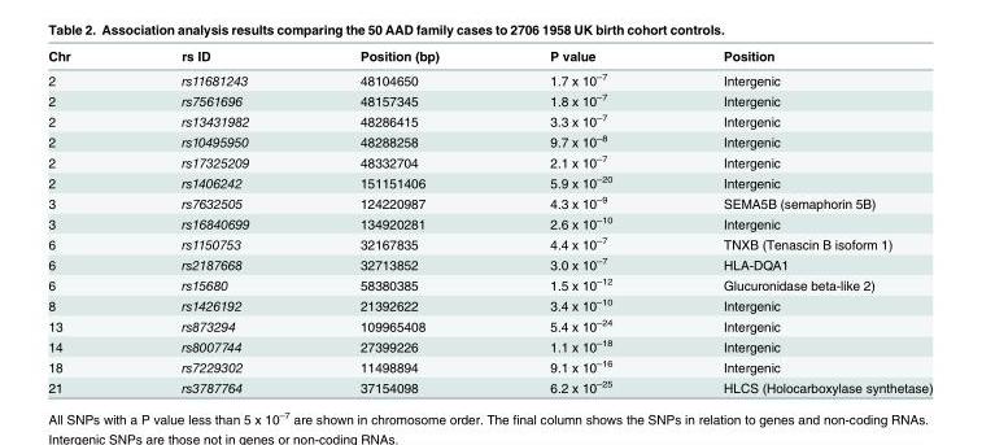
<table><thead><tr><td>Chr</td><td>rs ID</td><td>Position (bp)</td><td>P value</td><td>Position</td></tr></thead><tbody><tr><td>2</td><td>rs11681243</td><td>48104650</td><td>1.7 x 10<sup>–7</sup></td><td>Intergenic</td></tr><tr><td>2</td><td>rs7561696</td><td>48157345</td><td>1.8 x 10<sup>–7</sup></td><td>Intergenic</td></tr><tr><td>2</td><td>rs13431982</td><td>48286415</td><td>3.3 x 10<sup>–7</sup></td><td>Intergenic</td></tr><tr><td>2</td><td>rs10495950</td><td>48288258</td><td>9.7 x 10<sup>–8</sup></td><td>Intergenic</td></tr><tr><td>2</td><td>rs17325209</td><td>48332704</td><td>2.1 x 10<sup>–7</sup></td><td>Intergenic</td></tr><tr><td>2</td><td>rs1406242</td><td>151151406</td><td>5.9 x 10<sup>–20</sup></td><td>Intergenic</td></tr><tr><td>3</td><td>rs7632505</td><td>124220987</td><td>4.3 x 10<sup>–9</sup></td><td>SEMA5B (semaphorin 5B)</td></tr><tr><td>3</td><td>rs16840699</td><td>134920281</td><td>2.6 x 10<sup>–10</sup></td><td>Intergenic</td></tr><tr><td>6</td><td>rs1150753</td><td>32167835</td><td>4.4 x 10<sup>–7</sup></td><td>TNXB (Tenascin B isoform 1)</td></tr><tr><td>6</td><td>rs2187668</td><td>32713852</td><td>3.0 x 10<sup>–7</sup></td><td>HLA-DQA1</td></tr><tr><td>6</td><td>rs15680</td><td>58380385</td><td>1.5 x 10<sup>–12</sup></td><td>Glucuronidase beta-like 2)</td></tr><tr><td>8</td><td>rs1426192</td><td>21392622</td><td>3.4 x 10<sup>–10</sup></td><td>Intergenic</td></tr><tr><td>13</td><td>rs873294</td><td>109965408</td><td>5.4 x 10<sup>–24</sup></td><td>Intergenic</td></tr><tr><td>14</td><td>rs8007744</td><td>27399226</td><td>1.1 x 10<sup>–18</sup></td><td>Intergenic</td></tr><tr><td>18</td><td>rs7229302</td><td>11498894</td><td>9.1 x 10<sup>–16</sup></td><td>Intergenic</td></tr><tr><td>21</td><td>rs3787764</td><td>37154098</td><td>6.2 x 10<sup>–25</sup></td><td>HLCS (Holocarboxylase synthetase)</td></tr></tbody></table>